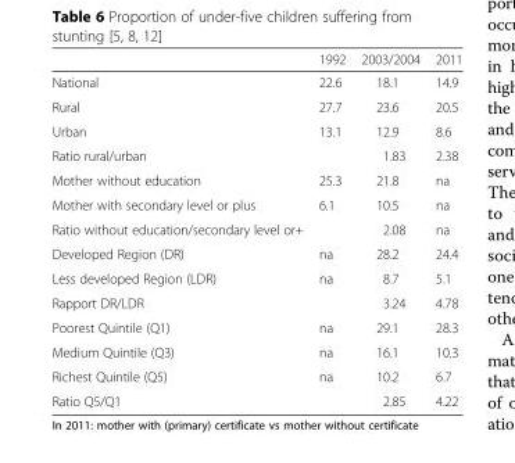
<table><thead><tr><td></td><td>1992</td><td>2003/2004</td><td>2011</td></tr></thead><tbody><tr><td>National</td><td>22.6</td><td>18.1</td><td>14.9</td></tr><tr><td>Rural</td><td>27.7</td><td>23.6</td><td>20.5</td></tr><tr><td>Urban</td><td>13.1</td><td>12.9</td><td>8.6</td></tr><tr><td>Ratio rural/urban</td><td></td><td>1.83</td><td>2.38</td></tr><tr><td>Mother without education</td><td>25.3</td><td>21.8</td><td>na</td></tr><tr><td>Mother with secondary level or plus</td><td>6.1</td><td>10.5</td><td>na</td></tr><tr><td>Ratio without education/secondary level or+</td><td></td><td>2.08</td><td>na</td></tr><tr><td>Developed Region (DR)</td><td>na</td><td>28.2</td><td>24.4</td></tr><tr><td>Less developed Region (LDR)</td><td>na</td><td>8.7</td><td>5.1</td></tr><tr><td>Rapport DR/LDR</td><td></td><td>3.24</td><td>4.78</td></tr><tr><td>Poorest Quintile (Q1)</td><td>na</td><td>29.1</td><td>28.3</td></tr><tr><td>Medium Quintile (Q3)</td><td>na</td><td>16.1</td><td>10.3</td></tr><tr><td>Richest Quintile (Q5)</td><td>na</td><td>10.2</td><td>6.7</td></tr><tr><td>Ratio Q5/Q1</td><td></td><td>2.85</td><td>4.22</td></tr></tbody></table>